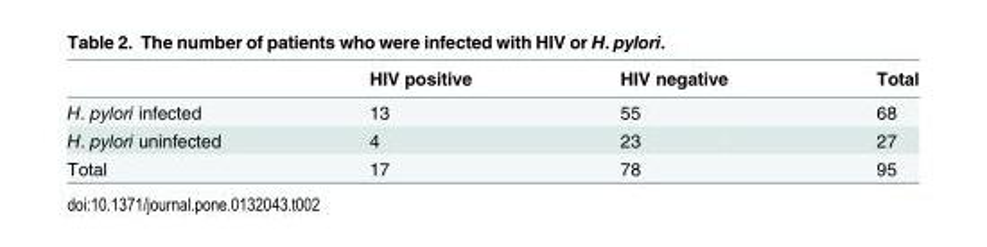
<table><thead><tr><td></td><td>HIV positive</td><td>HIV negative</td><td>Total</td></tr></thead><tbody><tr><td>H. pylori infected</td><td>13</td><td>55</td><td>68</td></tr><tr><td>H. pylori uninfected</td><td>4</td><td>23</td><td>27</td></tr><tr><td>Total</td><td>17</td><td>78</td><td>95</td></tr></tbody></table>